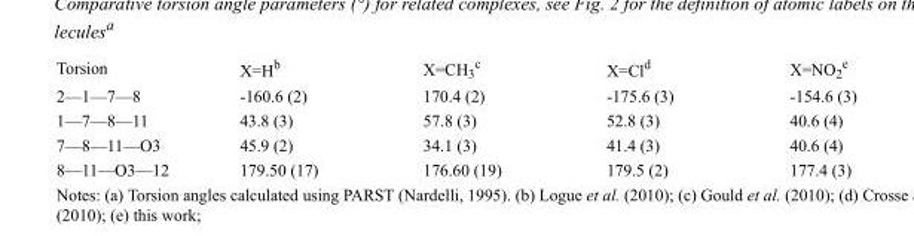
<table><tbody><tr><td>Torsion</td><td>X=H<sup>b</sup></td><td>X=CH<sub>3</sub> <sup>c</sup></td><td>X=Cl<sup>d</sup></td><td>X=NO<sub>2</sub> <sup>e</sup></td></tr><tr><td>2—1—7—8</td><td>-160.6 (2)</td><td>170.4 (2)</td><td>-175.6 (3)</td><td>-154.6 (3)</td></tr><tr><td>1—7—8—11</td><td>43.8 (3)</td><td>57.8 (3)</td><td>52.8 (3)</td><td>40.6 (4)</td></tr><tr><td>7—8—11—O3</td><td>45.9 (2)</td><td>34.1 (3)</td><td>41.4 (3)</td><td>40.6 (4)</td></tr><tr><td>8—11—O3—12</td><td>179.50 (17)</td><td>176.60 (19)</td><td>179.5 (2)</td><td>177.4 (3)</td></tr></tbody></table>